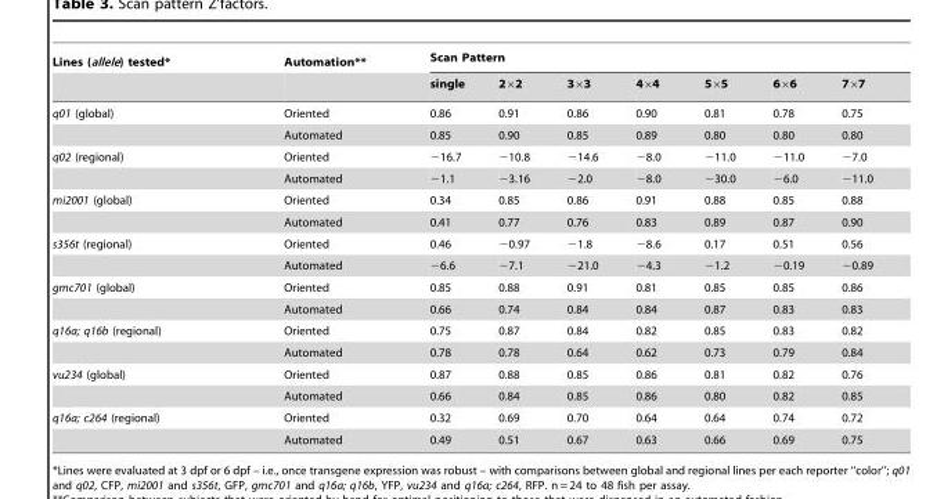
<table><thead><tr><td rowspan="2">Lines (allele) tested*</td><td rowspan="2">Automation**</td><td colspan="7">Scan Pattern</td></tr><tr><td>single</td><td>2×2</td><td>3×3</td><td>4×4</td><td>5×5</td><td>6×6</td><td>7×7</td></tr></thead><tbody><tr><td rowspan="2">q01 (global)</td><td>Oriented</td><td>0.86</td><td>0.91</td><td>0.86</td><td>0.90</td><td>0.81</td><td>0.78</td><td>0.75</td></tr><tr><td>Automated</td><td>0.85</td><td>0.90</td><td>0.85</td><td>0.89</td><td>0.80</td><td>0.80</td><td>0.80</td></tr><tr><td rowspan="2">q02 (regional)</td><td>Oriented</td><td>−16.7</td><td>−10.8</td><td>−14.6</td><td>−8.0</td><td>−11.0</td><td>−11.0</td><td>−7.0</td></tr><tr><td>Automated</td><td>−1.1</td><td>−3.16</td><td>−2.0</td><td>−8.0</td><td>−30.0</td><td>−6.0</td><td>−11.0</td></tr><tr><td rowspan="2">mi2001 (global)</td><td>Oriented</td><td>0.34</td><td>0.85</td><td>0.86</td><td>0.91</td><td>0.88</td><td>0.85</td><td>0.88</td></tr><tr><td>Automated</td><td>0.41</td><td>0.77</td><td>0.76</td><td>0.83</td><td>0.89</td><td>0.87</td><td>0.90</td></tr><tr><td rowspan="2">s356t (regional)</td><td>Oriented</td><td>0.46</td><td>−0.97</td><td>−1.8</td><td>−8.6</td><td>0.17</td><td>0.51</td><td>0.56</td></tr><tr><td>Automated</td><td>−6.6</td><td>−7.1</td><td>−21.0</td><td>−4.3</td><td>−1.2</td><td>−0.19</td><td>−0.89</td></tr><tr><td rowspan="2">gmc701 (global)</td><td>Oriented</td><td>0.85</td><td>0.88</td><td>0.91</td><td>0.81</td><td>0.85</td><td>0.85</td><td>0.86</td></tr><tr><td>Automated</td><td>0.66</td><td>0.74</td><td>0.84</td><td>0.84</td><td>0.87</td><td>0.83</td><td>0.83</td></tr><tr><td rowspan="2">q16a; q16b (regional)</td><td>Oriented</td><td>0.75</td><td>0.87</td><td>0.84</td><td>0.82</td><td>0.85</td><td>0.83</td><td>0.82</td></tr><tr><td>Automated</td><td>0.78</td><td>0.78</td><td>0.64</td><td>0.62</td><td>0.73</td><td>0.79</td><td>0.84</td></tr><tr><td rowspan="2">vu234 (global)</td><td>Oriented</td><td>0.87</td><td>0.88</td><td>0.85</td><td>0.86</td><td>0.81</td><td>0.82</td><td>0.76</td></tr><tr><td>Automated</td><td>0.66</td><td>0.84</td><td>0.85</td><td>0.86</td><td>0.80</td><td>0.82</td><td>0.85</td></tr><tr><td rowspan="2">q16a; c264 (regional)</td><td>Oriented</td><td>0.32</td><td>0.69</td><td>0.70</td><td>0.64</td><td>0.64</td><td>0.74</td><td>0.72</td></tr><tr><td>Automated</td><td>0.49</td><td>0.51</td><td>0.67</td><td>0.63</td><td>0.66</td><td>0.69</td><td>0.75</td></tr></tbody></table>